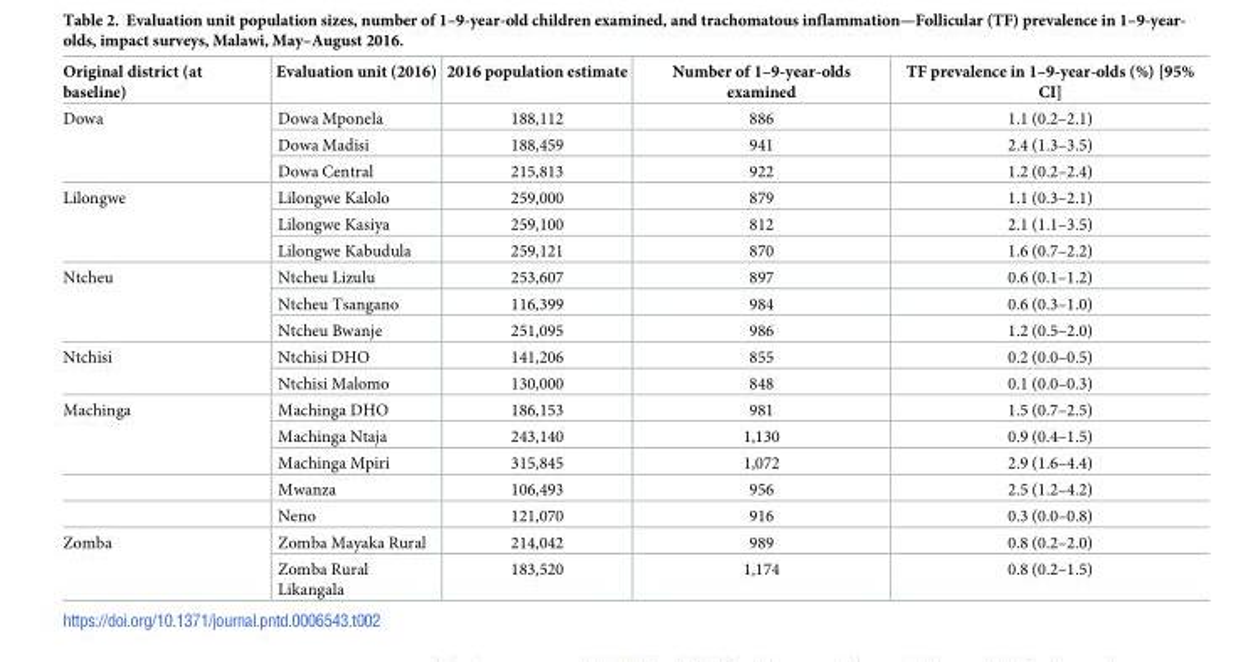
<table><thead><tr><td>Original district (at baseline)</td><td>Evaluation unit (2016)</td><td>2016 population estimate</td><td>Number of 1–9-year-olds examined</td><td>TF prevalence in 1–9-year-olds (%) [95% CI]</td></tr></thead><tbody><tr><td rowspan="3">Dowa</td><td>Dowa Mponela</td><td>188,112</td><td>886</td><td>1.1 (0.2–2.1)</td></tr><tr><td>Dowa Madisi</td><td>188,459</td><td>941</td><td>2.4 (1.3–3.5)</td></tr><tr><td>Dowa Central</td><td>215,813</td><td>922</td><td>1.2 (0.2–2.4)</td></tr><tr><td rowspan="3">Lilongwe</td><td>Lilongwe Kalolo</td><td>259,000</td><td>879</td><td>1.1 (0.3–2.1)</td></tr><tr><td>Lilongwe Kasiya</td><td>259,100</td><td>812</td><td>2.1 (1.1–3.5)</td></tr><tr><td>Lilongwe Kabudula</td><td>259,121</td><td>870</td><td>1.6 (0.7–2.2)</td></tr><tr><td rowspan="3">Ntcheu</td><td>Ntcheu Lizulu</td><td>253,607</td><td>897</td><td>0.6 (0.1–1.2)</td></tr><tr><td>Ntcheu Tsangano</td><td>116,399</td><td>984</td><td>0.6 (0.3–1.0)</td></tr><tr><td>Ntcheu Bwanje</td><td>251,095</td><td>986</td><td>1.2 (0.5–2.0)</td></tr><tr><td rowspan="2">Ntchisi</td><td>Ntchisi DHO</td><td>141,206</td><td>855</td><td>0.2 (0.0–0.5)</td></tr><tr><td>Ntchisi Malomo</td><td>130,000</td><td>848</td><td>0.1 (0.0–0.3)</td></tr><tr><td rowspan="5">Machinga</td><td>Machinga DHO</td><td>186,153</td><td>981</td><td>1.5 (0.7–2.5)</td></tr><tr><td>Machinga Ntaja</td><td>243,140</td><td>1,130</td><td>0.9 (0.4–1.5)</td></tr><tr><td>Machinga Mpiri</td><td>315,845</td><td>1,072</td><td>2.9 (1.6–4.4)</td></tr><tr><td>Mwanza</td><td>106,493</td><td>956</td><td>2.5 (1.2–4.2)</td></tr><tr><td>Neno</td><td>121,070</td><td>916</td><td>0.3 (0.0–0.8)</td></tr><tr><td rowspan="2">Zomba</td><td>Zomba Mayaka Rural</td><td>214,042</td><td>989</td><td>0.8 (0.2–2.0)</td></tr><tr><td>Zomba Rural Likangala</td><td>183,520</td><td>1,174</td><td>0.8 (0.2–1.5)</td></tr></tbody></table>